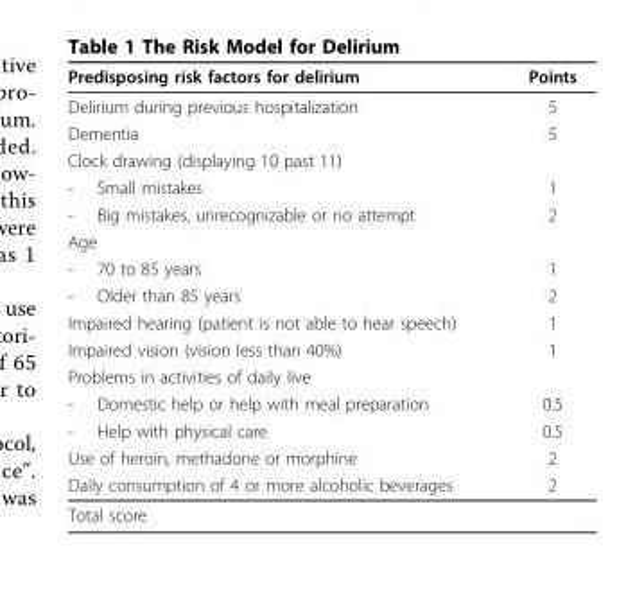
<table><thead><tr><td>Predisposing risk factors for delirium</td><td>Points</td></tr></thead><tbody><tr><td>Delirium during previous hospitalization</td><td>5</td></tr><tr><td>Dementia</td><td>5</td></tr><tr><td colspan="2">Clock drawing (displaying 10 past 11)</td></tr><tr><td>- Small mistakes</td><td>1</td></tr><tr><td>- Big mistakes, unrecognizable or no attempt</td><td>2</td></tr><tr><td colspan="2">Age</td></tr><tr><td>- 70 to 85 years</td><td>1</td></tr><tr><td>- Older than 85 years</td><td>2</td></tr><tr><td>Impaired hearing (patient is not able to hear speech)</td><td>1</td></tr><tr><td>Impaired vision (vision less than 40%)</td><td>1</td></tr><tr><td colspan="2">Problems in activities of daily live</td></tr><tr><td>- Domestic help or help with meal preparation</td><td>0.5</td></tr><tr><td>- Help with physical care</td><td>0.5</td></tr><tr><td>Use of heroin, methadone or morphine</td><td>2</td></tr><tr><td>Daily consumption of 4 or more alcoholic beverages</td><td>2</td></tr><tr><td>Total score</td><td></td></tr></tbody></table>